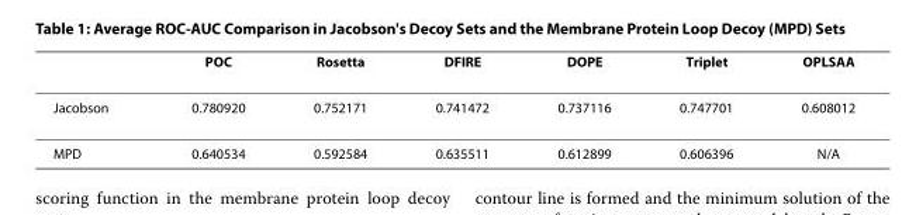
<table><thead><tr><td></td><td>POC</td><td>Rosetta</td><td>DFIRE</td><td>DOPE</td><td>Triplet</td><td>OPLSAA</td></tr></thead><tbody><tr><td>Jacobson</td><td>0.780920</td><td>0.752171</td><td>0.741472</td><td>0.737116</td><td>0.747701</td><td>0.608012</td></tr><tr><td>MPD</td><td>0.640534</td><td>0.592584</td><td>0.635511</td><td>0.612899</td><td>0.606396</td><td>N/A</td></tr></tbody></table>